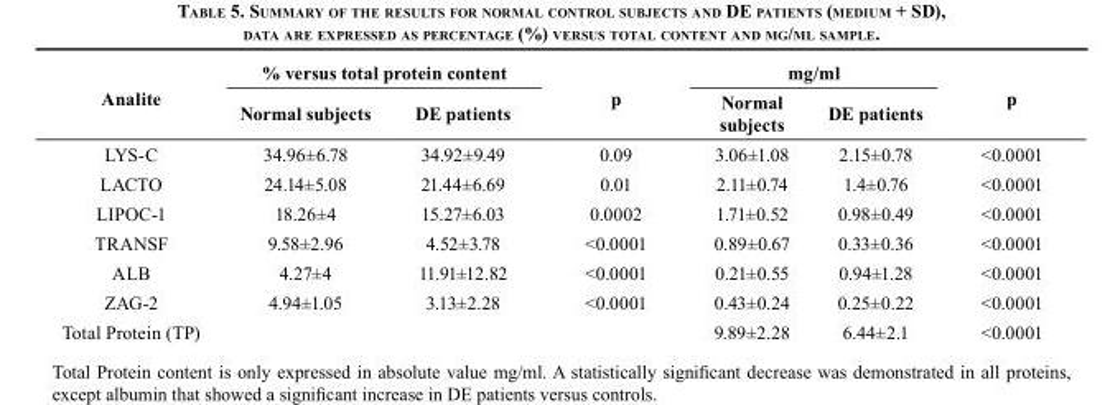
<table><thead><tr><td rowspan="2">Analite</td><td colspan="2">% versus total protein content</td><td rowspan="2">p</td><td colspan="2">mg/ml</td><td rowspan="2">p</td></tr><tr><td>Normal subjects</td><td>DE patients</td><td>Normal subjects</td><td>DE patients</td></tr></thead><tbody><tr><td>LYS-C</td><td>34.96±6.78</td><td>34.92±9.49</td><td>0.09</td><td>3.06±1.08</td><td>2.15±0.78</td><td>&lt;0.0001</td></tr><tr><td>LACTO</td><td>24.14±5.08</td><td>21.44±6.69</td><td>0.01</td><td>2.11±0.74</td><td>1.4±0.76</td><td>&lt;0.0001</td></tr><tr><td>LIPOC-1</td><td>18.26±4</td><td>15.27±6.03</td><td>0.0002</td><td>1.71±0.52</td><td>0.98±0.49</td><td>&lt;0.0001</td></tr><tr><td>TRANSF</td><td>9.58±2.96</td><td>4.52±3.78</td><td>&lt;0.0001</td><td>0.89±0.67</td><td>0.33±0.36</td><td>&lt;0.0001</td></tr><tr><td>ALB</td><td>4.27±4</td><td>11.91±12.82</td><td>&lt;0.0001</td><td>0.21±0.55</td><td>0.94±1.28</td><td>&lt;0.0001</td></tr><tr><td>ZAG-2</td><td>4.94±1.05</td><td>3.13±2.28</td><td>&lt;0.0001</td><td>0.43±0.24</td><td>0.25±0.22</td><td>&lt;0.0001</td></tr><tr><td>Total Protein (TP)</td><td></td><td></td><td></td><td>9.89±2.28</td><td>6.44±2.1</td><td>&lt;0.0001</td></tr></tbody></table>